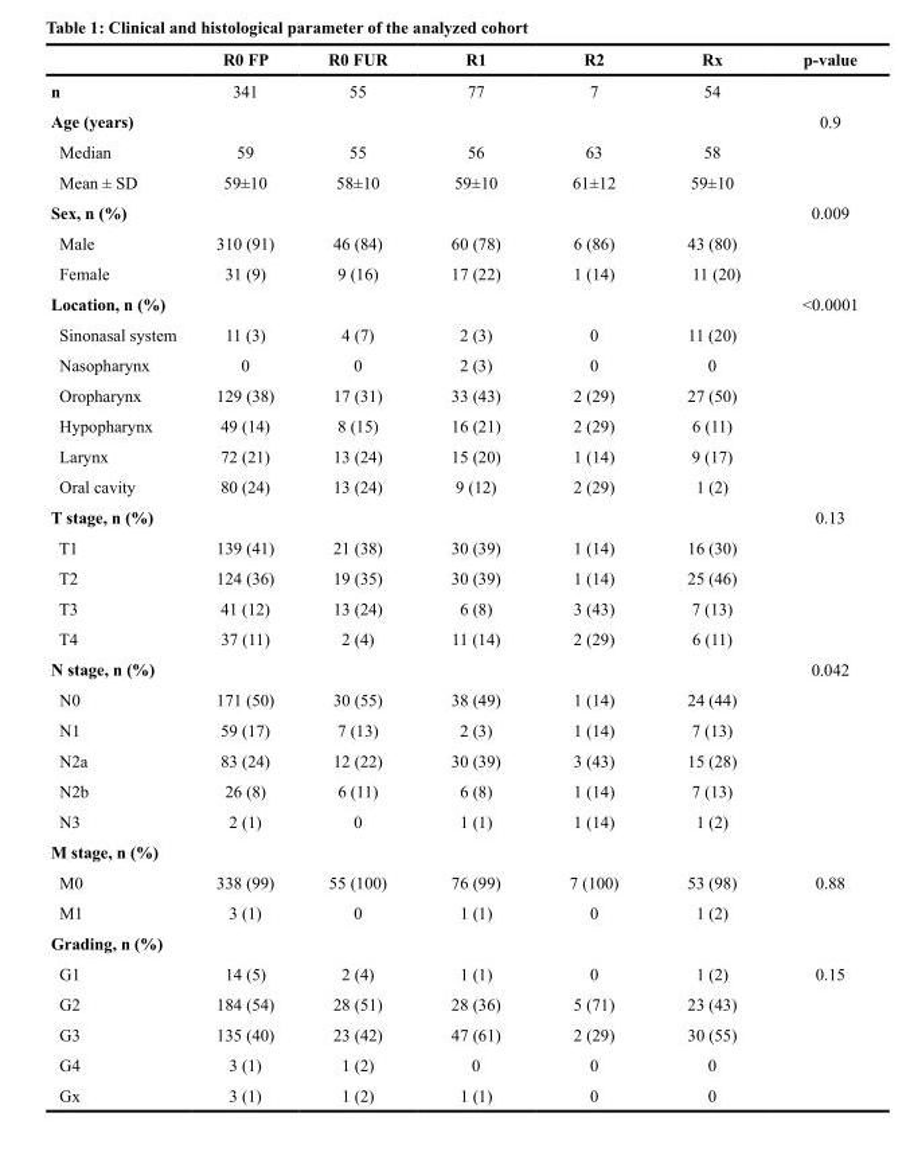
<table><thead><tr><td></td><td>R0 FP</td><td>R0 FUR</td><td>R1</td><td>R2</td><td>Rx</td><td>p-value</td></tr></thead><tbody><tr><td>n</td><td>341</td><td>55</td><td>77</td><td>7</td><td>54</td><td></td></tr><tr><td>Age (years)</td><td></td><td></td><td></td><td></td><td></td><td>0.9</td></tr><tr><td>Median</td><td>59</td><td>55</td><td>56</td><td>63</td><td>58</td><td></td></tr><tr><td>Mean ± SD</td><td>59±10</td><td>58±10</td><td>59±10</td><td>61±12</td><td>59±10</td><td></td></tr><tr><td>Sex, n (%)</td><td></td><td></td><td></td><td></td><td></td><td>0.009</td></tr><tr><td>Male</td><td>310 (91)</td><td>46 (84)</td><td>60 (78)</td><td>6 (86)</td><td>43 (80)</td><td></td></tr><tr><td>Female</td><td>31 (9)</td><td>9 (16)</td><td>17 (22)</td><td>1 (14)</td><td>11 (20)</td><td></td></tr><tr><td>Location, n (%)</td><td></td><td></td><td></td><td></td><td></td><td>&lt;0.0001</td></tr><tr><td>Sinonasal system</td><td>11 (3)</td><td>4 (7)</td><td>2 (3)</td><td>0</td><td>11 (20)</td><td></td></tr><tr><td>Nasopharynx</td><td>0</td><td>0</td><td>2 (3)</td><td>0</td><td>0</td><td></td></tr><tr><td>Oropharynx</td><td>129 (38)</td><td>17 (31)</td><td>33 (43)</td><td>2 (29)</td><td>27 (50)</td><td></td></tr><tr><td>Hypopharynx</td><td>49 (14)</td><td>8 (15)</td><td>16 (21)</td><td>2 (29)</td><td>6 (11)</td><td></td></tr><tr><td>Larynx</td><td>72 (21)</td><td>13 (24)</td><td>15 (20)</td><td>1 (14)</td><td>9 (17)</td><td></td></tr><tr><td>Oral cavity</td><td>80 (24)</td><td>13 (24)</td><td>9 (12)</td><td>2 (29)</td><td>1 (2)</td><td></td></tr><tr><td>T stage, n (%)</td><td></td><td></td><td></td><td></td><td></td><td>0.13</td></tr><tr><td>T1</td><td>139 (41)</td><td>21 (38)</td><td>30 (39)</td><td>1 (14)</td><td>16 (30)</td><td></td></tr><tr><td>T2</td><td>124 (36)</td><td>19 (35)</td><td>30 (39)</td><td>1 (14)</td><td>25 (46)</td><td></td></tr><tr><td>T3</td><td>41 (12)</td><td>13 (24)</td><td>6 (8)</td><td>3 (43)</td><td>7 (13)</td><td></td></tr><tr><td>T4</td><td>37 (11)</td><td>2 (4)</td><td>11 (14)</td><td>2 (29)</td><td>6 (11)</td><td></td></tr><tr><td>N stage, n (%)</td><td></td><td></td><td></td><td></td><td></td><td>0.042</td></tr><tr><td>N0</td><td>171 (50)</td><td>30 (55)</td><td>38 (49)</td><td>1 (14)</td><td>24 (44)</td><td></td></tr><tr><td>N1</td><td>59 (17)</td><td>7 (13)</td><td>2 (3)</td><td>1 (14)</td><td>7 (13)</td><td></td></tr><tr><td>N2a</td><td>83 (24)</td><td>12 (22)</td><td>30 (39)</td><td>3 (43)</td><td>15 (28)</td><td></td></tr><tr><td>N2b</td><td>26 (8)</td><td>6 (11)</td><td>6 (8)</td><td>1 (14)</td><td>7 (13)</td><td></td></tr><tr><td>N3</td><td>2 (1)</td><td>0</td><td>1 (1)</td><td>1 (14)</td><td>1 (2)</td><td></td></tr><tr><td colspan="7">M stage, n (%)</td></tr><tr><td>M0</td><td>338 (99)</td><td>55 (100)</td><td>76 (99)</td><td>7 (100)</td><td>53 (98)</td><td>0.88</td></tr><tr><td>M1</td><td>3 (1)</td><td>0</td><td>1 (1)</td><td>0</td><td>1 (2)</td><td></td></tr><tr><td colspan="7">Grading, n (%)</td></tr><tr><td>G1</td><td>14 (5)</td><td>2 (4)</td><td>1 (1)</td><td>0</td><td>1 (2)</td><td>0.15</td></tr><tr><td>G2</td><td>184 (54)</td><td>28 (51)</td><td>28 (36)</td><td>5 (71)</td><td>23 (43)</td><td></td></tr><tr><td>G3</td><td>135 (40)</td><td>23 (42)</td><td>47 (61)</td><td>2 (29)</td><td>30 (55)</td><td></td></tr><tr><td>G4</td><td>3 (1)</td><td>1 (2)</td><td>0</td><td>0</td><td>0</td><td></td></tr><tr><td>Gx</td><td>3 (1)</td><td>1 (2)</td><td>1 (1)</td><td>0</td><td>0</td><td></td></tr></tbody></table>